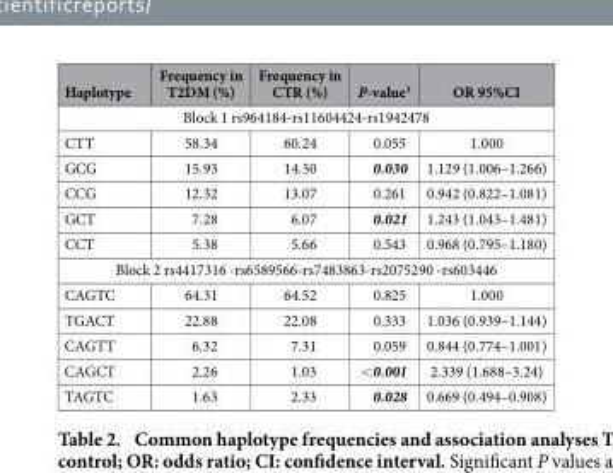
<table><thead><tr><td>Haplotype</td><td>Frequency in T2DM (%)</td><td>Frequency in CTR (%)</td><td>P-value<sup>1</sup></td><td>OR 95%CI</td></tr></thead><tbody><tr><td colspan="5">Block 1 rs964184-rs11604424-rs1942478</td></tr><tr><td>CTT</td><td>58.34</td><td>60.24</td><td>0.055</td><td>1.000</td></tr><tr><td>GCG</td><td>15.93</td><td>14.50</td><td>0.030</td><td>1.129 (1.006–1.266)</td></tr><tr><td>CCG</td><td>12.32</td><td>13.07</td><td>0.261</td><td>0.942 (0.822–1.081)</td></tr><tr><td>GCT</td><td>7.28</td><td>6.07</td><td>0.021</td><td>1.243 (1.043–1.481)</td></tr><tr><td>CCT</td><td>5.38</td><td>5.66</td><td>0.543</td><td>0.968 (0.795–1.180)</td></tr><tr><td colspan="5">Block 2 rs4417316 -rs6589566-rs7483863-rs2075290 -rs603446</td></tr><tr><td>CAGTC</td><td>64.31</td><td>64.52</td><td>0.825</td><td>1.000</td></tr><tr><td>TGACT</td><td>22.88</td><td>22.08</td><td>0.333</td><td>1.036 (0.939–1.144)</td></tr><tr><td>CAGTT</td><td>6.32</td><td>7.31</td><td>0.059</td><td>0.844 (0.774–1.001)</td></tr><tr><td>CAGCT</td><td>2.26</td><td>1.03</td><td>&lt; 0.001</td><td>2.339 (1.688–3.24)</td></tr><tr><td>TAGTC</td><td>1.63</td><td>2.33</td><td>0.028</td><td>0.669 (0.494–0.908)</td></tr></tbody></table>